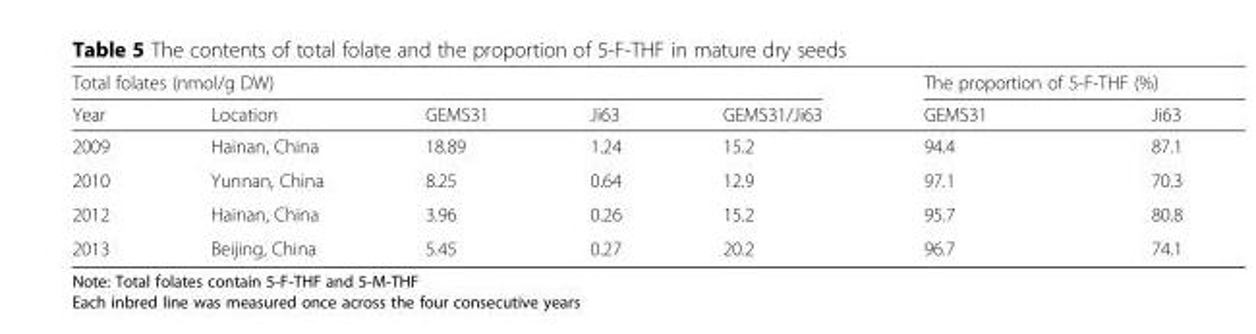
<table><thead><tr><td colspan="5">Total folates (nmol/g DW)</td><td colspan="2">The proportion of 5-F-THF (%)</td></tr><tr><td>Year</td><td>Location</td><td>GEMS31</td><td>Ji63</td><td>GEMS31/Ji63</td><td>GEMS31</td><td>Ji63</td></tr></thead><tbody><tr><td>2009</td><td>Hainan, China</td><td>18.89</td><td>1.24</td><td>15.2</td><td>94.4</td><td>87.1</td></tr><tr><td>2010</td><td>Yunnan, China</td><td>8.25</td><td>0.64</td><td>12.9</td><td>97.1</td><td>70.3</td></tr><tr><td>2012</td><td>Hainan, China</td><td>3.96</td><td>0.26</td><td>15.2</td><td>95.7</td><td>80.8</td></tr><tr><td>2013</td><td>Beijing, China</td><td>5.45</td><td>0.27</td><td>20.2</td><td>96.7</td><td>74.1</td></tr></tbody></table>